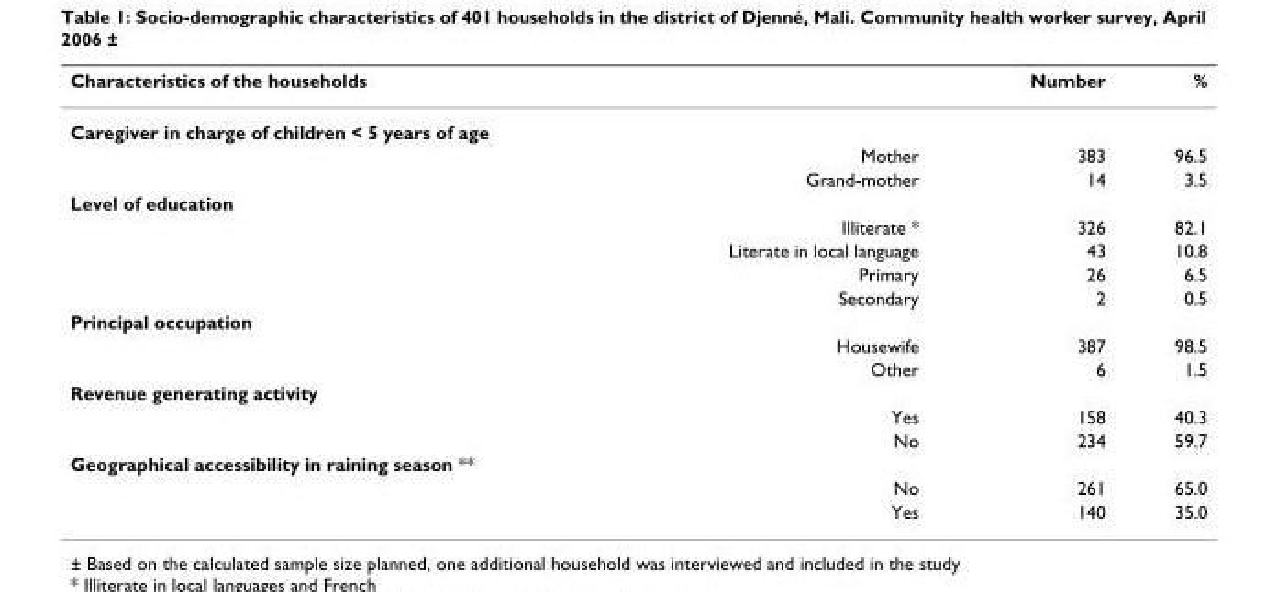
<table><thead><tr><td>Characteristics of the households</td><td>Number</td><td>%</td></tr></thead><tbody><tr><td colspan="3">Caregiver in charge of children &lt; 5 years of age</td></tr><tr><td>Mother</td><td>383</td><td>96.5</td></tr><tr><td>Grand-mother</td><td>14</td><td>3.5</td></tr><tr><td colspan="3">Level of education</td></tr><tr><td>Illiterate *</td><td>326</td><td>82.1</td></tr><tr><td>Literate in local language</td><td>43</td><td>10.8</td></tr><tr><td>Primary</td><td>26</td><td>6.5</td></tr><tr><td>Secondary</td><td>2</td><td>0.5</td></tr><tr><td colspan="3">Principal occupation</td></tr><tr><td>Housewife</td><td>387</td><td>98.5</td></tr><tr><td>Other</td><td>6</td><td>1.5</td></tr><tr><td colspan="3">Revenue generating activity</td></tr><tr><td>Yes</td><td>158</td><td>40.3</td></tr><tr><td>No</td><td>234</td><td>59.7</td></tr><tr><td colspan="3">Geographical accessibility in raining season **</td></tr><tr><td>No</td><td>261</td><td>65.0</td></tr><tr><td>Yes</td><td>140</td><td>35.0</td></tr></tbody></table>